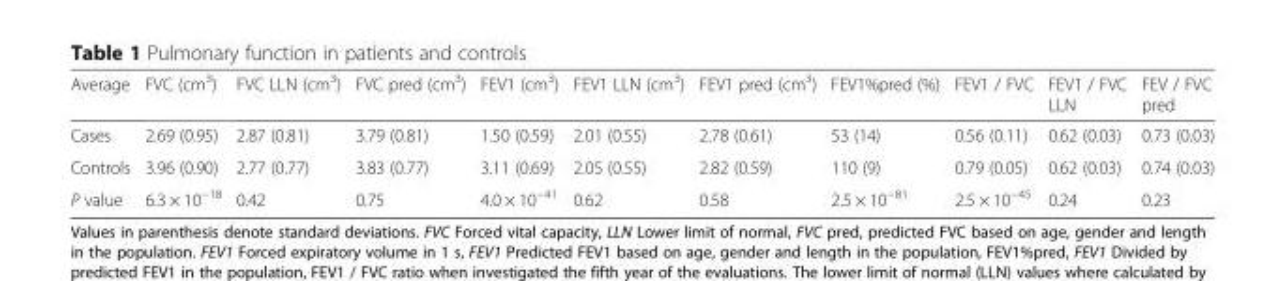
<table><thead><tr><td>Average</td><td>FVC (cm<sup>3</sup>)</td><td>FVC LLN (cm<sup>3</sup>)</td><td>FVC pred (cm<sup>3</sup>)</td><td>FEV1 (cm<sup>3</sup>)</td><td>FEV1 LLN (cm<sup>3</sup>)</td><td>FEV1 pred (cm<sup>3</sup>)</td><td>FEV1%pred (%)</td><td>FEV1 / FVC</td><td>FEV1 / FVC LLN</td><td>FEV / FVC pred</td></tr></thead><tbody><tr><td>Cases</td><td>2.69 (0.95)</td><td>2.87 (0.81)</td><td>3.79 (0.81)</td><td>1.50 (0.59)</td><td>2.01 (0.55)</td><td>2.78 (0.61)</td><td>53 (14)</td><td>0.56 (0.11)</td><td>0.62 (0.03)</td><td>0.73 (0.03)</td></tr><tr><td>Controls</td><td>3.96 (0.90)</td><td>2.77 (0.77)</td><td>3.83 (0.77)</td><td>3.11 (0.69)</td><td>2.05 (0.55)</td><td>2.82 (0.59)</td><td>110 (9)</td><td>0.79 (0.05)</td><td>0.62 (0.03)</td><td>0.74 (0.03)</td></tr><tr><td>P value</td><td>6.3 × 10<sup>−18</sup></td><td>0.42</td><td>0.75</td><td>4.0 × 10<sup>−41</sup></td><td>0.62</td><td>0.58</td><td>2.5 × 10<sup>−81</sup></td><td>2.5 × 10<sup>−45</sup></td><td>0.24</td><td>0.23</td></tr></tbody></table>